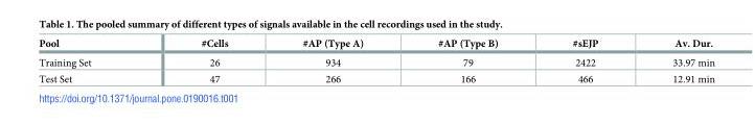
<table><thead><tr><td>Pool</td><td>#Cells</td><td>#AP (Type A)</td><td>#AP (Type B)</td><td>#sEJP</td><td>Av. Dur.</td></tr></thead><tbody><tr><td>Training Set</td><td>26</td><td>934</td><td>79</td><td>2422</td><td>33.97 min</td></tr><tr><td>Test Set</td><td>47</td><td>266</td><td>166</td><td>466</td><td>12.91 min</td></tr></tbody></table>